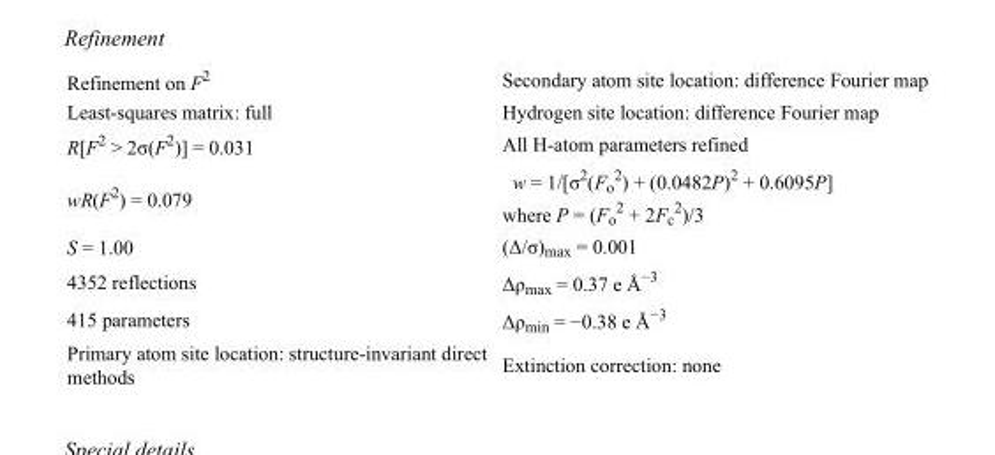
<table><tbody><tr><td>Refinement on F<sup>2</sup></td><td>Secondary atom site location: difference Fourier map</td></tr><tr><td>Least-squares matrix: full</td><td>Hydrogen site location: difference Fourier map</td></tr><tr><td>R[F<sup>2</sup> &gt; 2σ(F<sup>2</sup>)] = 0.031</td><td>All H-atom parameters refined</td></tr><tr><td>wR(F<sup>2</sup>) = 0.079</td><td>w = 1/[σ<sup>2</sup>(F<sub>o</sub> <sup>2</sup>) + (0.0482P)<sup>2</sup> + 0.6095P] where P = (F<sub>o</sub> <sup>2</sup> + 2F<sub>c</sub> <sup>2</sup>)/3</td></tr><tr><td>S = 1.00</td><td>(Δ/σ)<sub>max</sub> = 0.001</td></tr><tr><td>4352 reflections</td><td>Δρ<sub>max</sub> = 0.37 e Å<sup>−3</sup></td></tr><tr><td>415 parameters</td><td>Δρ<sub>min</sub> = −0.38 e Å<sup>−3</sup></td></tr><tr><td>Primary atom site location: structure-invariant direct methods</td><td>Extinction correction: none</td></tr></tbody></table>